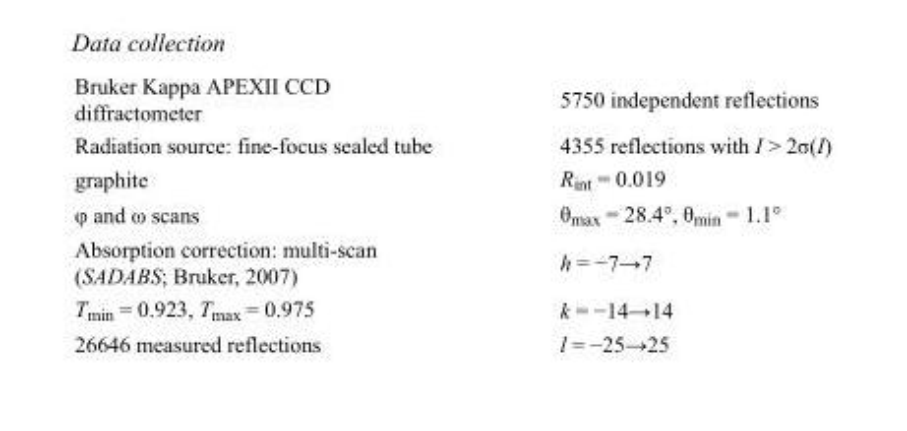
<table><tbody><tr><td>Bruker Kappa APEXII CCD diffractometer</td><td>5750 independent reflections</td></tr><tr><td>Radiation source: fine-focus sealed tube</td><td>4355 reflections with I &gt; 2σ(I)</td></tr><tr><td>graphite</td><td>R<sub>int</sub> = 0.019</td></tr><tr><td>φ and ω scans</td><td>θ<sub>max</sub> = 28.4°, θ<sub>min</sub> = 1.1°</td></tr><tr><td>Absorption correction: multi-scan (SADABS; Bruker, 2007)</td><td>h = −7→7</td></tr><tr><td>T<sub>min</sub> = 0.923, T<sub>max</sub> = 0.975</td><td>k = −14→14</td></tr><tr><td>26646 measured reflections</td><td>l = −25→25</td></tr></tbody></table>